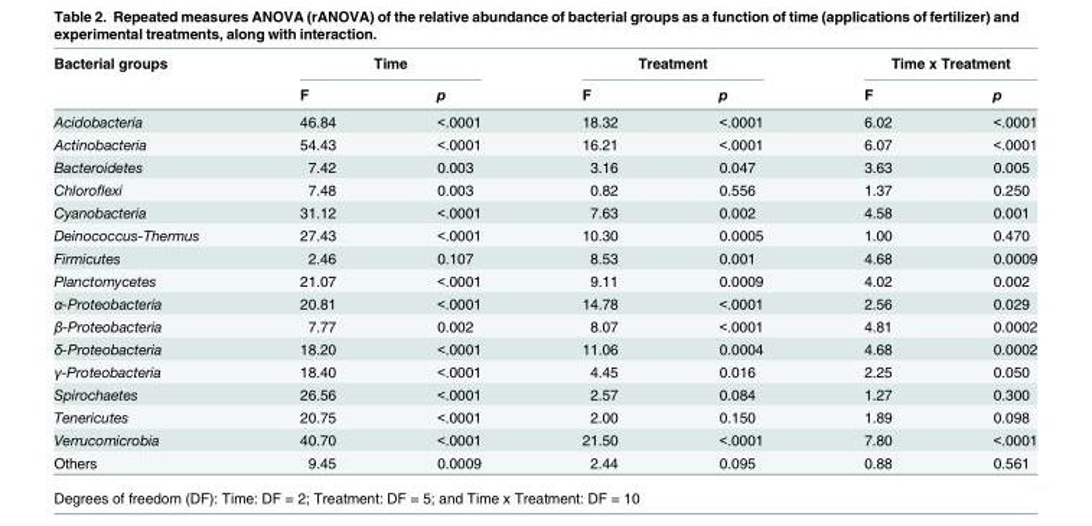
<table><thead><tr><td rowspan="2">Bacterial groups</td><td colspan="2">Time</td><td colspan="2">Treatment</td><td colspan="2">Time x Treatment</td></tr><tr><td>F</td><td>p</td><td>F</td><td>p</td><td>F</td><td>p</td></tr></thead><tbody><tr><td>Acidobacteria</td><td>46.84</td><td>&lt;.0001</td><td>18.32</td><td>&lt;.0001</td><td>6.02</td><td>&lt;.0001</td></tr><tr><td>Actinobacteria</td><td>54.43</td><td>&lt;.0001</td><td>16.21</td><td>&lt;.0001</td><td>6.07</td><td>&lt;.0001</td></tr><tr><td>Bacteroidetes</td><td>7.42</td><td>0.003</td><td>3.16</td><td>0.047</td><td>3.63</td><td>0.005</td></tr><tr><td>Chloroflexi</td><td>7.48</td><td>0.003</td><td>0.82</td><td>0.556</td><td>1.37</td><td>0.250</td></tr><tr><td>Cyanobacteria</td><td>31.12</td><td>&lt;.0001</td><td>7.63</td><td>0.002</td><td>4.58</td><td>0.001</td></tr><tr><td>Deinococcus-Thermus</td><td>27.43</td><td>&lt;.0001</td><td>10.30</td><td>0.0005</td><td>1.00</td><td>0.470</td></tr><tr><td>Firmicutes</td><td>2.46</td><td>0.107</td><td>8.53</td><td>0.001</td><td>4.68</td><td>0.0009</td></tr><tr><td>Planctomycetes</td><td>21.07</td><td>&lt;.0001</td><td>9.11</td><td>0.0009</td><td>4.02</td><td>0.002</td></tr><tr><td>α-Proteobacteria</td><td>20.81</td><td>&lt;.0001</td><td>14.78</td><td>&lt;.0001</td><td>2.56</td><td>0.029</td></tr><tr><td>β-Proteobacteria</td><td>7.77</td><td>0.002</td><td>8.07</td><td>&lt;.0001</td><td>4.81</td><td>0.0002</td></tr><tr><td>δ-Proteobacteria</td><td>18.20</td><td>&lt;.0001</td><td>11.06</td><td>0.0004</td><td>4.68</td><td>0.0002</td></tr><tr><td>γ-Proteobacteria</td><td>18.40</td><td>&lt;.0001</td><td>4.45</td><td>0.016</td><td>2.25</td><td>0.050</td></tr><tr><td>Spirochaetes</td><td>26.56</td><td>&lt;.0001</td><td>2.57</td><td>0.084</td><td>1.27</td><td>0.300</td></tr><tr><td>Tenericutes</td><td>20.75</td><td>&lt;.0001</td><td>2.00</td><td>0.150</td><td>1.89</td><td>0.098</td></tr><tr><td>Verrucomicrobia</td><td>40.70</td><td>&lt;.0001</td><td>21.50</td><td>&lt;.0001</td><td>7.80</td><td>&lt;.0001</td></tr><tr><td>Others</td><td>9.45</td><td>0.0009</td><td>2.44</td><td>0.095</td><td>0.88</td><td>0.561</td></tr></tbody></table>